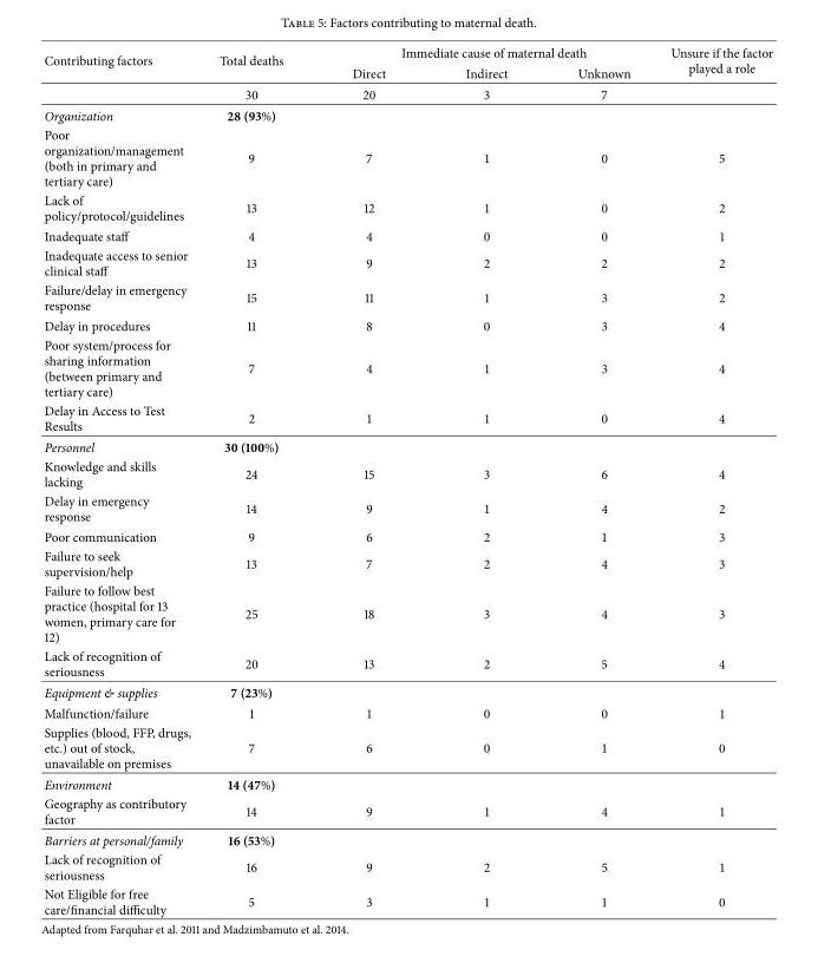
<table><thead><tr><td rowspan="2">Contributing factors</td><td rowspan="2">Total deaths</td><td colspan="3">Immediate cause of maternal death</td><td rowspan="2">Unsure if the factor played a role</td></tr><tr><td>Direct</td><td>Indirect</td><td>Unknown</td></tr></thead><tbody><tr><td></td><td>30</td><td>20</td><td>3</td><td>7</td><td></td></tr><tr><td>Organization</td><td>28 (93%)</td><td></td><td></td><td></td><td></td></tr><tr><td>Poor organization/management (both in primary and tertiary care)</td><td>9</td><td>7</td><td>1</td><td>0</td><td>5</td></tr><tr><td>Lack of policy/protocol/guidelines</td><td>13</td><td>12</td><td>1</td><td>0</td><td>2</td></tr><tr><td>Inadequate staff</td><td>4</td><td>4</td><td>0</td><td>0</td><td>1</td></tr><tr><td>Inadequate access to senior clinical staff</td><td>13</td><td>9</td><td>2</td><td>2</td><td>2</td></tr><tr><td>Failure/delay in emergency response</td><td>15</td><td>11</td><td>1</td><td>3</td><td>2</td></tr><tr><td>Delay in procedures</td><td>11</td><td>8</td><td>0</td><td>3</td><td>4</td></tr><tr><td>Poor system/process for sharing information (between primary and tertiary care)</td><td>7</td><td>4</td><td>1</td><td>3</td><td>4</td></tr><tr><td>Delay in Access to Test Results</td><td>2</td><td>1</td><td>1</td><td>0</td><td>4</td></tr><tr><td>Personnel</td><td>30 (100%)</td><td></td><td></td><td></td><td></td></tr><tr><td>Knowledge and skills lacking</td><td>24</td><td>15</td><td>3</td><td>6</td><td>4</td></tr><tr><td>Delay in emergency response</td><td>14</td><td>9</td><td>1</td><td>4</td><td>2</td></tr><tr><td>Poor communication</td><td>9</td><td>6</td><td>2</td><td>1</td><td>3</td></tr><tr><td>Failure to seek supervision/help</td><td>13</td><td>7</td><td>2</td><td>4</td><td>3</td></tr><tr><td>Failure to follow best practice (hospital for 13 women, primary care for 12)</td><td>25</td><td>18</td><td>3</td><td>4</td><td>3</td></tr><tr><td>Lack of recognition of seriousness</td><td>20</td><td>13</td><td>2</td><td>5</td><td>4</td></tr><tr><td>Equipment &amp; supplies</td><td>7 (23%)</td><td></td><td></td><td></td><td></td></tr><tr><td>Malfunction/failure</td><td>1</td><td>1</td><td>0</td><td>0</td><td>1</td></tr><tr><td>Supplies (blood, FFP, drugs, etc.) out of stock, unavailable on premises</td><td>7</td><td>6</td><td>0</td><td>1</td><td>0</td></tr><tr><td>Environment</td><td>14 (47%)</td><td></td><td></td><td></td><td></td></tr><tr><td>Geography as contributory factor</td><td>14</td><td>9</td><td>1</td><td>4</td><td>1</td></tr><tr><td>Barriers at personal/family</td><td>16 (53%)</td><td></td><td></td><td></td><td></td></tr><tr><td>Lack of recognition of seriousness</td><td>16</td><td>9</td><td>2</td><td>5</td><td>1</td></tr><tr><td>Not Eligible for free care/financial difficulty</td><td>5</td><td>3</td><td>1</td><td>1</td><td>0</td></tr></tbody></table>